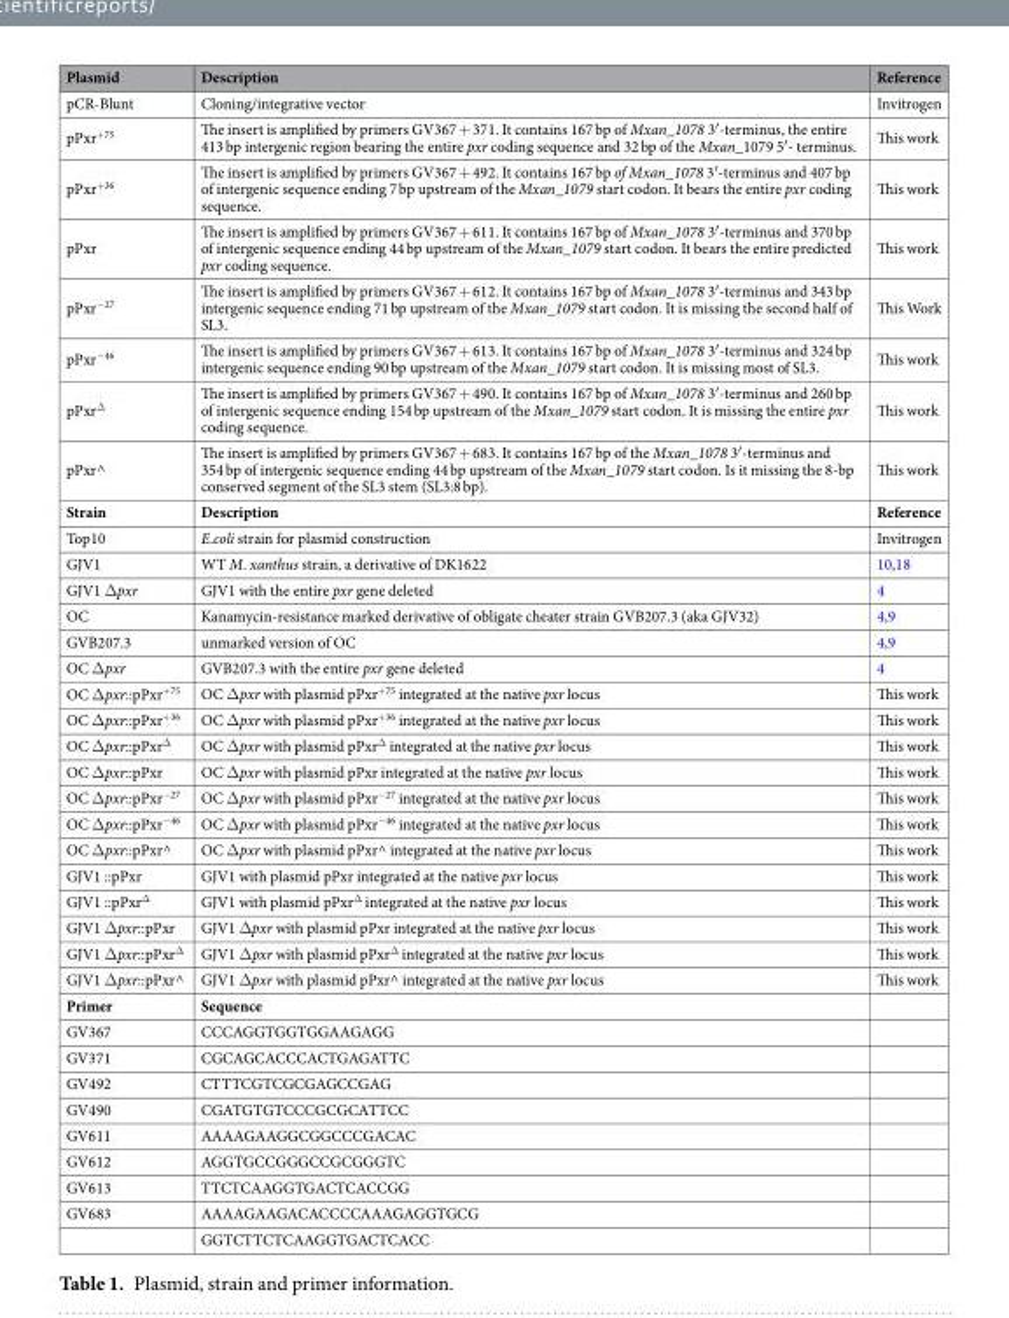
<table><thead><tr><td>Plasmid</td><td>Description</td><td>Reference</td></tr></thead><tbody><tr><td>pCR-Blunt</td><td>Cloning/integrative vector</td><td>Invitrogen</td></tr><tr><td>pPxr<sup>+75</sup></td><td>The insert is amplified by primers GV367 + 371. It contains 167 bp of Mxan_1078 3′-terminus, the entire 413 bp intergenic region bearing the entire pxr coding sequence and 32 bp of the Mxan_1079 5′- terminus.</td><td>This work</td></tr><tr><td>pPxr<sup>+36</sup></td><td>The insert is amplified by primers GV367 + 492. It contains 167 bp of Mxan_1078 3′-terminus and 407 bp of intergenic sequence ending 7 bp upstream of the Mxan_1079 start codon. It bears the entire pxr coding sequence.</td><td>This work</td></tr><tr><td>pPxr</td><td>The insert is amplified by primers GV367 + 611. It contains 167 bp of Mxan_1078 3′-terminus and 370 bp of intergenic sequence ending 44 bp upstream of the Mxan_1079 start codon. It bears the entire predicted pxr coding sequence.</td><td>This work</td></tr><tr><td>pPxr<sup>−27</sup></td><td>The insert is amplified by primers GV367 + 612. It contains 167 bp of Mxan_1078 3′-terminus and 343 bp intergenic sequence ending 71 bp upstream of the Mxan_1079 start codon. It is missing the second half of SL3.</td><td>This Work</td></tr><tr><td>pPxr<sup>−46</sup></td><td>The insert is amplified by primers GV367 + 613. It contains 167 bp of Mxan_1078 3′-terminus and 324 bp intergenic sequence ending 90 bp upstream of the Mxan_1079 start codon. It is missing most of SL3.</td><td>This work</td></tr><tr><td>pPxr<sup>Δ</sup></td><td>The insert is amplified by primers GV367 + 490. It contains 167 bp of Mxan_1078 3′-terminus and 260 bp of intergenic sequence ending 154 bp upstream of the Mxan_1079 start codon. It is missing the entire pxr coding sequence.</td><td>This work</td></tr><tr><td>pPxr^</td><td>The insert is amplified by primers GV367 + 683. It contains 167 bp of the Mxan_1078 3′-terminus and 354 bp of intergenic sequence ending 44 bp upstream of the Mxan_1079 start codon. Is it missing the 8-bp conserved segment of the SL3 stem (SL3:8 bp).</td><td>This work</td></tr><tr><td>Strain</td><td>Description</td><td>Reference</td></tr><tr><td>Top10</td><td>E.coli strain for plasmid construction</td><td>Invitrogen</td></tr><tr><td>GJV1</td><td>WT M. xanthus strain, a derivative of DK1622</td><td>10,18</td></tr><tr><td>GJV1 Δpxr</td><td>GJV1 with the entire pxr gene deleted</td><td>4</td></tr><tr><td>OC</td><td>Kanamycin-resistance marked derivative of obligate cheater strain GVB207.3 (aka GJV32)</td><td>4,9</td></tr><tr><td>GVB207.3</td><td>unmarked version of OC</td><td>4,9</td></tr><tr><td>OC Δpxr</td><td>GVB207.3 with the entire pxr gene deleted</td><td>4</td></tr><tr><td>OC Δpxr::pPxr<sup>+75</sup></td><td>OC Δpxr with plasmid pPxr<sup>+75</sup> integrated at the native pxr locus</td><td>This work</td></tr><tr><td>OC Δpxr::pPxr<sup>+36</sup></td><td>OC Δpxr with plasmid pPxr<sup>+36</sup> integrated at the native pxr locus</td><td>This work</td></tr><tr><td>OC Δpxr::pPxr<sup>Δ</sup></td><td>OC Δpxr with plasmid pPxr<sup>Δ</sup> integrated at the native pxr locus</td><td>This work</td></tr><tr><td>OC Δpxr::pPxr</td><td>OC Δpxr with plasmid pPxr integrated at the native pxr locus</td><td>This work</td></tr><tr><td>OC Δpxr::pPxr<sup>−27</sup></td><td>OC Δpxr with plasmid pPxr<sup>−27</sup> integrated at the native pxr locus</td><td>This work</td></tr><tr><td>OC Δpxr::pPxr<sup>−46</sup></td><td>OC Δpxr with plasmid pPxr<sup>−46</sup> integrated at the native pxr locus</td><td>This work</td></tr><tr><td>OC Δpxr::pPxr^</td><td>OC Δpxr with plasmid pPxr^ integrated at the native pxr locus</td><td>This work</td></tr><tr><td>GJV1 ::pPxr</td><td>GJV1 with plasmid pPxr integrated at the native pxr locus</td><td>This work</td></tr><tr><td>GJV1 ::pPxr<sup>Δ</sup></td><td>GJV1 with plasmid pPxr<sup>Δ</sup> integrated at the native pxr locus</td><td>This work</td></tr><tr><td>GJV1 Δpxr::pPxr</td><td>GJV1 Δpxr with plasmid pPxr integrated at the native pxr locus</td><td>This work</td></tr><tr><td>GJV1 Δpxr::pPxr<sup>Δ</sup></td><td>GJV1 Δpxr with plasmid pPxr<sup>Δ</sup> integrated at the native pxr locus</td><td>This work</td></tr><tr><td>GJV1 Δpxr::pPxr^</td><td>GJV1 Δpxr with plasmid pPxr^ integrated at the native pxr locus</td><td>This work</td></tr><tr><td>Primer</td><td>Sequence</td><td></td></tr><tr><td>GV367</td><td>CCCAGGTGGTGGAAGAGG</td><td></td></tr><tr><td>GV371</td><td>CGCAGCACCCACTGAGATTC</td><td></td></tr><tr><td>GV492</td><td>CTTTCGTCGCGAGCCGAG</td><td></td></tr><tr><td>GV490</td><td>CGATGTGTCCCGCGCATTCC</td><td></td></tr><tr><td>GV611</td><td>AAAAGAAGGCGGCCCGACAC</td><td></td></tr><tr><td>GV612</td><td>AGGTGCCGGGCCGCGGGTC</td><td></td></tr><tr><td>GV613</td><td>TTCTCAAGGTGACTCACCGG</td><td></td></tr><tr><td rowspan="2">GV683</td><td>AAAAGAAGACACCCCAAAGAGGTGCG</td><td></td></tr><tr><td>GGTCTTCTCAAGGTGACTCACC</td><td></td></tr></tbody></table>